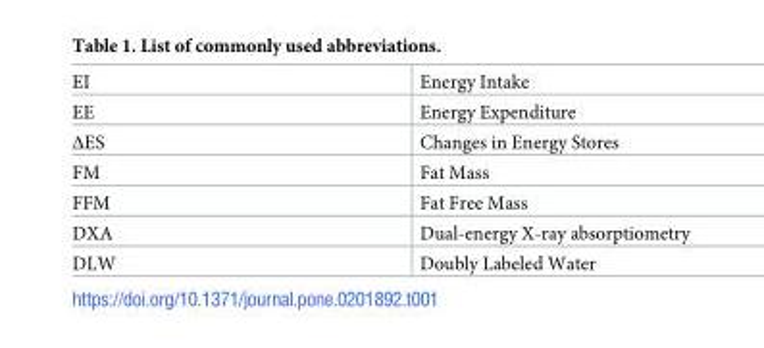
<table><tbody><tr><td>EI</td><td>Energy Intake</td></tr><tr><td>EE</td><td>Energy Expenditure</td></tr><tr><td>ΔES</td><td>Changes in Energy Stores</td></tr><tr><td>FM</td><td>Fat Mass</td></tr><tr><td>FFM</td><td>Fat Free Mass</td></tr><tr><td>DXA</td><td>Dual-energy X-ray absorptiometry</td></tr><tr><td>DLW</td><td>Doubly Labeled Water</td></tr></tbody></table>